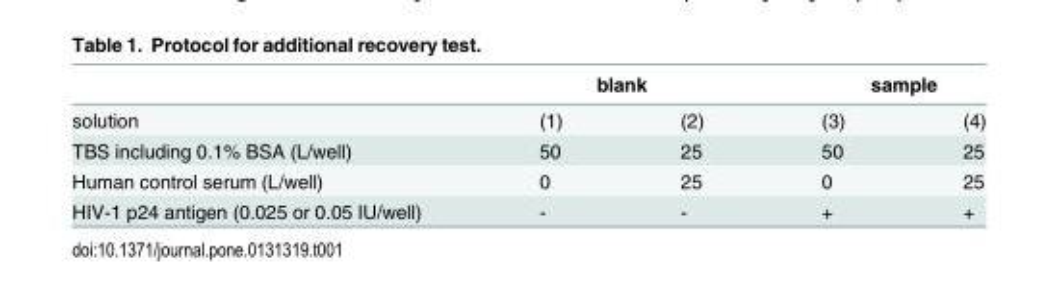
<table><thead><tr><td rowspan="2">solution</td><td colspan="2">blank</td><td colspan="2">sample</td></tr><tr><td>(1)</td><td>(2)</td><td>(3)</td><td>(4)</td></tr></thead><tbody><tr><td>TBS including 0.1% BSA (L/well)</td><td>50</td><td>25</td><td>50</td><td>25</td></tr><tr><td>Human control serum (L/well)</td><td>0</td><td>25</td><td>0</td><td>25</td></tr><tr><td>HIV-1 p24 antigen (0.025 or 0.05 IU/well)</td><td>-</td><td>-</td><td>+</td><td>+</td></tr></tbody></table>